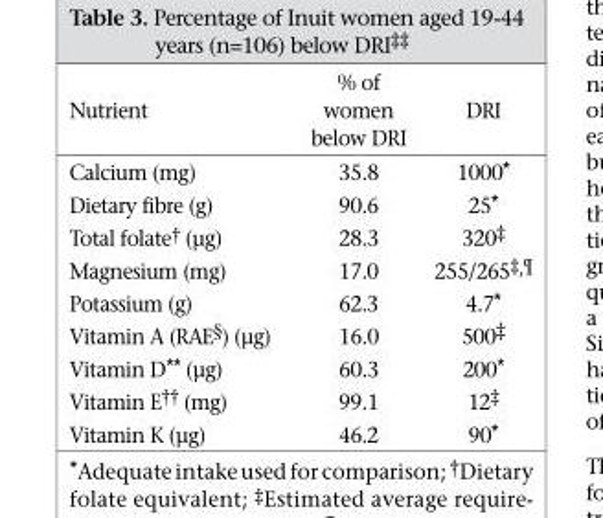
<table><thead><tr><td>Nutrient</td><td>% of women below DRI</td><td>DRI</td></tr></thead><tbody><tr><td>Calcium (mg)</td><td>35.8</td><td>1000*</td></tr><tr><td>Dietary fibre (g)</td><td>90.6</td><td>25*</td></tr><tr><td>Total folate† (µg)</td><td>28.3</td><td>320‡</td></tr><tr><td>Magnesium (mg)</td><td>17.0</td><td>255/265‡,¶</td></tr><tr><td>Potassium (g)</td><td>62.3</td><td>4.7*</td></tr><tr><td>Vitamin A (RAE§) (µg)</td><td>16.0</td><td>500‡</td></tr><tr><td>Vitamin D** (µg)</td><td>60.3</td><td>200*</td></tr><tr><td>Vitamin E†† (mg)</td><td>99.1</td><td>12‡</td></tr><tr><td>Vitamin K (µg)</td><td>46.2</td><td>90*</td></tr></tbody></table>